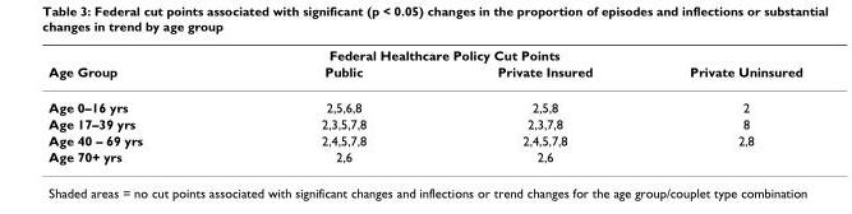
<table><thead><tr><td colspan="4">Federal Healthcare Policy Cut Points</td></tr><tr><td>Age Group</td><td>Public</td><td>Private Insured</td><td>Private Uninsured</td></tr></thead><tbody><tr><td>Age 0–16 yrs</td><td>2,5,6,8</td><td>2,5,8</td><td>2</td></tr><tr><td>Age 17–39 yrs</td><td>2,3,5,7,8</td><td>2,3,7,8</td><td>8</td></tr><tr><td>Age 40 – 69 yrs</td><td>2,4,5,7,8</td><td>2,4,5,7,8</td><td>2,8</td></tr><tr><td>Age 70+ yrs</td><td>2,6</td><td>2,6</td><td></td></tr></tbody></table>